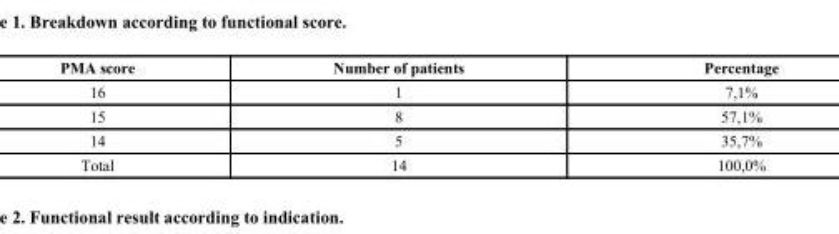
<table><thead><tr><td>PMA score</td><td>Number of patients</td><td>Percentage</td></tr></thead><tbody><tr><td>16</td><td>1</td><td>7,1%</td></tr><tr><td>15</td><td>8</td><td>57,1%</td></tr><tr><td>14</td><td>5</td><td>35,7%</td></tr><tr><td>Total</td><td>14</td><td>100,0%</td></tr></tbody></table>